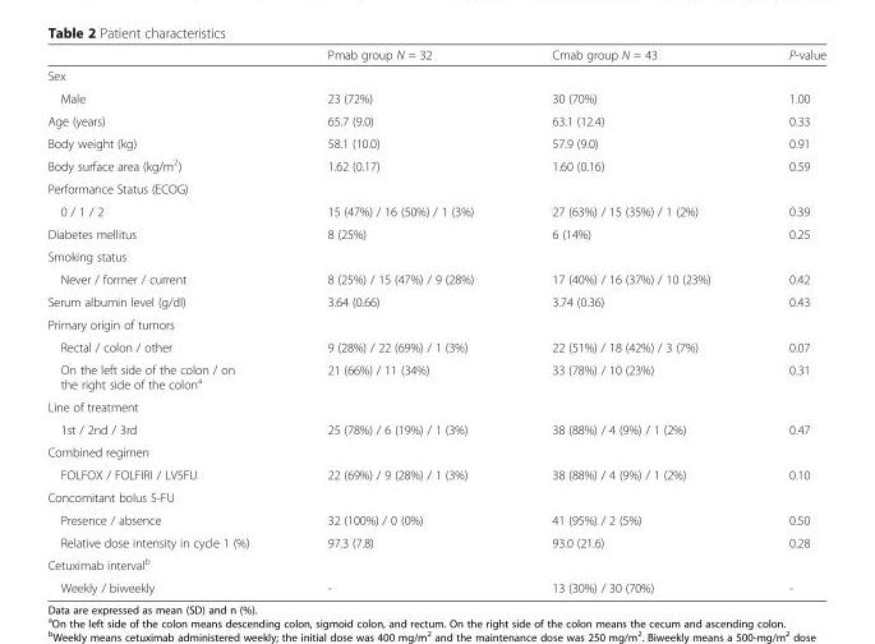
<table><thead><tr><td></td><td>Pmab group N = 32</td><td>Cmab group N = 43</td><td>P-value</td></tr></thead><tbody><tr><td colspan="4">Sex</td></tr><tr><td>Male</td><td>23 (72%)</td><td>30 (70%)</td><td>1.00</td></tr><tr><td>Age (years)</td><td>65.7 (9.0)</td><td>63.1 (12.4)</td><td>0.33</td></tr><tr><td>Body weight (kg)</td><td>58.1 (10.0)</td><td>57.9 (9.0)</td><td>0.91</td></tr><tr><td>Body surface area (kg/m<sup>2</sup>)</td><td>1.62 (0.17)</td><td>1.60 (0.16)</td><td>0.59</td></tr><tr><td colspan="4">Performance Status (ECOG)</td></tr><tr><td>0 / 1 / 2</td><td>15 (47%) / 16 (50%) / 1 (3%)</td><td>27 (63%) / 15 (35%) / 1 (2%)</td><td>0.39</td></tr><tr><td>Diabetes mellitus</td><td>8 (25%)</td><td>6 (14%)</td><td>0.25</td></tr><tr><td colspan="4">Smoking status</td></tr><tr><td>Never / former / current</td><td>8 (25%) / 15 (47%) / 9 (28%)</td><td>17 (40%) / 16 (37%) / 10 (23%)</td><td>0.42</td></tr><tr><td>Serum albumin level (g/dl)</td><td>3.64 (0.66)</td><td>3.74 (0.36)</td><td>0.43</td></tr><tr><td colspan="4">Primary origin of tumors</td></tr><tr><td>Rectal / colon / other</td><td>9 (28%) / 22 (69%) / 1 (3%)</td><td>22 (51%) / 18 (42%) / 3 (7%)</td><td>0.07</td></tr><tr><td>On the left side of the colon / on the right side of the colon<sup>a</sup></td><td>21 (66%) / 11 (34%)</td><td>33 (78%) / 10 (23%)</td><td>0.31</td></tr><tr><td colspan="4">Line of treatment</td></tr><tr><td>1st / 2nd / 3rd</td><td>25 (78%) / 6 (19%) / 1 (3%)</td><td>38 (88%) / 4 (9%) / 1 (2%)</td><td>0.47</td></tr><tr><td colspan="4">Combined regimen</td></tr><tr><td>FOLFOX / FOLFIRI / LV5FU</td><td>22 (69%) / 9 (28%) / 1 (3%)</td><td>38 (88%) / 4 (9%) / 1 (2%)</td><td>0.10</td></tr><tr><td colspan="4">Concomitant bolus 5-FU</td></tr><tr><td>Presence / absence</td><td>32 (100%) / 0 (0%)</td><td>41 (95%) / 2 (5%)</td><td>0.50</td></tr><tr><td>Relative dose intensity in cycle 1 (%)</td><td>97.3 (7.8)</td><td>93.0 (21.6)</td><td>0.28</td></tr><tr><td colspan="4">Cetuximab interval<sup>b</sup></td></tr><tr><td>Weekly / biweekly</td><td>-</td><td>13 (30%) / 30 (70%)</td><td>-</td></tr></tbody></table>